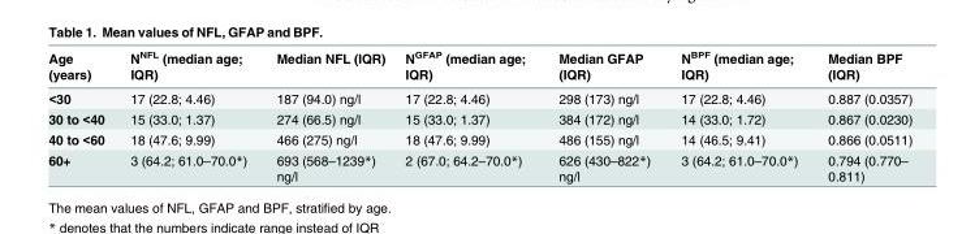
<table><thead><tr><td>Age (years)</td><td>N<sup>NFL</sup> (median age; IQR)</td><td>Median NFL (IQR)</td><td>N<sup>GFAP</sup> (median age; IQR)</td><td>Median GFAP (IQR)</td><td>N<sup>BPF</sup> (median age; IQR)</td><td>Median BPF (IQR)</td></tr></thead><tbody><tr><td>&lt;30</td><td>17 (22.8; 4.46)</td><td>187 (94.0) ng/l</td><td>17 (22.8; 4.46)</td><td>298 (173) ng/l</td><td>17 (22.8; 4.46)</td><td>0.887 (0.0357)</td></tr><tr><td>30 to &lt;40</td><td>15 (33.0; 1.37)</td><td>274 (66.5) ng/l</td><td>15 (33.0; 1.37)</td><td>384 (172) ng/l</td><td>14 (33.0; 1.72)</td><td>0.867 (0.0230)</td></tr><tr><td>40 to &lt;60</td><td>18 (47.6; 9.99)</td><td>466 (275) ng/l</td><td>18 (47.6; 9.99)</td><td>486 (155) ng/l</td><td>14 (46.5; 9.41)</td><td>0.866 (0.0511)</td></tr><tr><td>60+</td><td>3 (64.2; 61.0–70.0*)</td><td>693 (568–1239*) ng/l</td><td>2 (67.0; 64.2–70.0*)</td><td>626 (430–822*) ng/l</td><td>3 (64.2; 61.0–70.0*)</td><td>0.794 (0.770– 0.811)</td></tr></tbody></table>